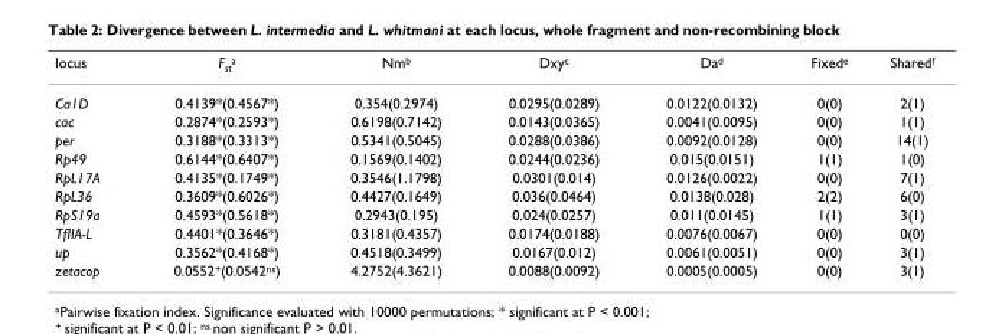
<table><thead><tr><td>locus</td><td>F<sub>st</sub><sup>a</sup></td><td>Nm<sup>b</sup></td><td>Dxy<sup>c</sup></td><td>Da<sup>d</sup></td><td>Fixed<sup>e</sup></td><td>Shared<sup>f</sup></td></tr></thead><tbody><tr><td>Ca1D</td><td>0.4139*(0.4567*)</td><td>0.354(0.2974)</td><td>0.0295(0.0289)</td><td>0.0122(0.0132)</td><td>0(0)</td><td>2(1)</td></tr><tr><td>cac</td><td>0.2874*(0.2593*)</td><td>0.6198(0.7142)</td><td>0.0143(0.0365)</td><td>0.0041(0.0095)</td><td>0(0)</td><td>1(1)</td></tr><tr><td>per</td><td>0.3188*(0.3313*)</td><td>0.5341(0.5045)</td><td>0.0288(0.0386)</td><td>0.0092(0.0128)</td><td>0(0)</td><td>14(1)</td></tr><tr><td>Rp49</td><td>0.6144*(0.6407*)</td><td>0.1569(0.1402)</td><td>0.0244(0.0236)</td><td>0.015(0.0151)</td><td>1(1)</td><td>1(0)</td></tr><tr><td>RpL17A</td><td>0.4135*(0.1749*)</td><td>0.3546(1.1798)</td><td>0.0301(0.014)</td><td>0.0126(0.0022)</td><td>0(0)</td><td>7(1)</td></tr><tr><td>RpL36</td><td>0.3609*(0.6026*)</td><td>0.4427(0.1649)</td><td>0.036(0.0464)</td><td>0.0138(0.028)</td><td>2(2)</td><td>6(0)</td></tr><tr><td>RpS19a</td><td>0.4593*(0.5618*)</td><td>0.2943(0.195)</td><td>0.024(0.0257)</td><td>0.011(0.0145)</td><td>1(1)</td><td>3(1)</td></tr><tr><td>TfIIA-L</td><td>0.4401*(0.3646*)</td><td>0.3181(0.4357)</td><td>0.0174(0.0188)</td><td>0.0076(0.0067)</td><td>0(0)</td><td>0(0)</td></tr><tr><td>up</td><td>0.3562*(0.4168*)</td><td>0.4518(0.3499)</td><td>0.0167(0.012)</td><td>0.0061(0.0051)</td><td>0(0)</td><td>3(1)</td></tr><tr><td>zetacop</td><td>0.0552<sup>+</sup>(0.0542<sup>ns</sup>)</td><td>4.2752(4.3621)</td><td>0.0088(0.0092)</td><td>0.0005(0.0005)</td><td>0(0)</td><td>3(1)</td></tr></tbody></table>